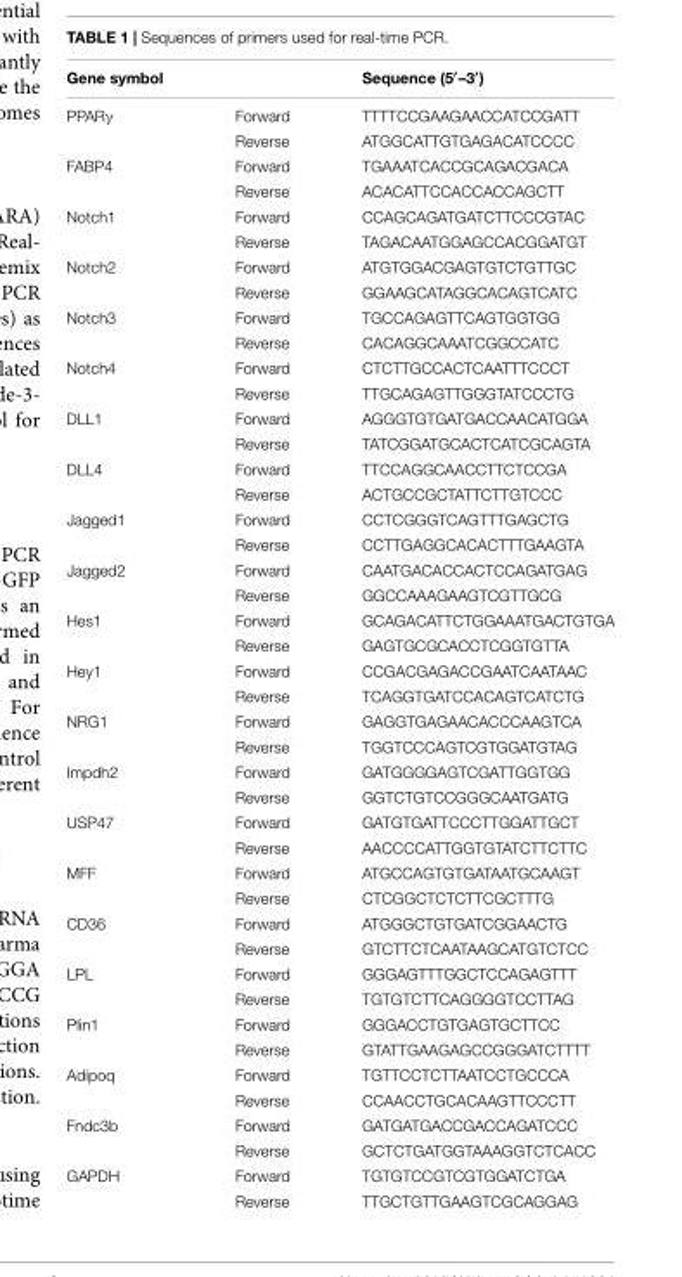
<table><thead><tr><td>Gene symbol</td><td></td><td>Sequence (5′–3′)</td></tr></thead><tbody><tr><td rowspan="2">PPARγ</td><td>Forward</td><td>TTTTCCGAAGAACCATCCGATT</td></tr><tr><td>Reverse</td><td>ATGGCATTGTGAGACATCCCC</td></tr><tr><td rowspan="2">FABP4</td><td>Forward</td><td>TGAAATCACCGCAGACGACA</td></tr><tr><td>Reverse</td><td>ACACATTCCACCACCAGCTT</td></tr><tr><td rowspan="2">Notch1</td><td>Forward</td><td>CCAGCAGATGATCTTCCCGTAC</td></tr><tr><td>Reverse</td><td>TAGACAATGGAGCCACGGATGT</td></tr><tr><td rowspan="2">Notch2</td><td>Forward</td><td>ATGTGGACGAGTGTCTGTTGC</td></tr><tr><td>Reverse</td><td>GGAAGCATAGGCACAGTCATC</td></tr><tr><td rowspan="2">Notch3</td><td>Forward</td><td>TGCCAGAGTTCAGTGGTGG</td></tr><tr><td>Reverse</td><td>CACAGGCAAATCGGCCATC</td></tr><tr><td rowspan="2">Notch4</td><td>Forward</td><td>CTCTTGCCACTCAATTTCCCT</td></tr><tr><td>Reverse</td><td>TTGCAGAGTTGGGTATCCCTG</td></tr><tr><td rowspan="2">DLL1</td><td>Forward</td><td>AGGGTGTGATGACCAACATGGA</td></tr><tr><td>Reverse</td><td>TATCGGATGCACTCATCGCAGTA</td></tr><tr><td rowspan="2">DLL4</td><td>Forward</td><td>TTCCAGGCAACCTTCTCCGA</td></tr><tr><td>Reverse</td><td>ACTGCCGCTATTCTTGTCCC</td></tr><tr><td rowspan="2">Jagged1</td><td>Forward</td><td>CCTCGGGTCAGTTTGAGCTG</td></tr><tr><td>Reverse</td><td>CCTTGAGGCACACTTTGAAGTA</td></tr><tr><td rowspan="2">Jagged2</td><td>Forward</td><td>CAATGACACCACTCCAGATGAG</td></tr><tr><td>Reverse</td><td>GGCCAAAGAAGTCGTTGCG</td></tr><tr><td rowspan="2">Hes1</td><td>Forward</td><td>GCAGACATTCTGGAAATGACTGTGA</td></tr><tr><td>Reverse</td><td>GAGTGCGCACCTCGGTGTTA</td></tr><tr><td rowspan="2">Hey1</td><td>Forward</td><td>CCGACGAGACCGAATCAATAAC</td></tr><tr><td>Reverse</td><td>TCAGGTGATCCACAGTCATCTG</td></tr><tr><td rowspan="2">NRG1</td><td>Forward</td><td>GAGGTGAGAACACCCAAGTCA</td></tr><tr><td>Reverse</td><td>TGGTCCCAGTCGTGGATGTAG</td></tr><tr><td rowspan="2">Impdh2</td><td>Forward</td><td>GATGGGGAGTCGATTGGTGG</td></tr><tr><td>Reverse</td><td>GGTCTGTCCGGGCAATGATG</td></tr><tr><td rowspan="2">USP47</td><td>Forward</td><td>GATGTGATTCCCTTGGATTGCT</td></tr><tr><td>Reverse</td><td>AACCCCATTGGTGTATCTTCTTC</td></tr><tr><td rowspan="2">MFF</td><td>Forward</td><td>ATGCCAGTGTGATAATGCAAGT</td></tr><tr><td>Reverse</td><td>CTCGGCTCTCTTCGCTTTG</td></tr><tr><td rowspan="2">CD36</td><td>Forward</td><td>ATGGGCTGTGATCGGAACTG</td></tr><tr><td>Reverse</td><td>GTCTTCTCAATAAGCATGTCTCC</td></tr><tr><td rowspan="2">LPL</td><td>Forward</td><td>GGGAGTTTGGCTCCAGAGTTT</td></tr><tr><td>Reverse</td><td>TGTGTCTTCAGGGGTCCTTAG</td></tr><tr><td rowspan="2">Plin1</td><td>Forward</td><td>GGGACCTGTGAGTGCTTCC</td></tr><tr><td>Reverse</td><td>GTATTGAAGAGCCGGGATCTTTT</td></tr><tr><td rowspan="2">Adipoq</td><td>Forward</td><td>TGTTCCTCTTAATCCTGCCCA</td></tr><tr><td>Reverse</td><td>CCAACCTGCACAAGTTCCCTT</td></tr><tr><td rowspan="2">Fndc3b</td><td>Forward</td><td>GATGATGACCGACCAGATCCC</td></tr><tr><td>Reverse</td><td>GCTCTGATGGTAAAGGTCTCACC</td></tr><tr><td rowspan="2">GAPDH</td><td>Forward</td><td>TGTGTCCGTCGTGGATCTGA</td></tr><tr><td>Reverse</td><td>TTGCTGTTGAAGTCGCAGGAG</td></tr></tbody></table>